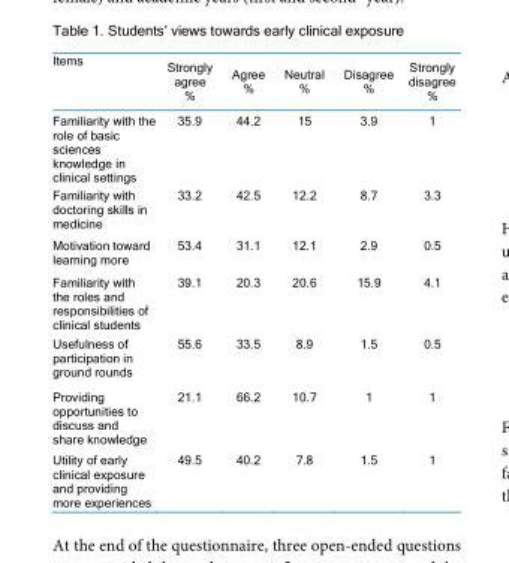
<table><thead><tr><td>Items</td><td>Strongly agree %</td><td>Agree %</td><td>Neutral %</td><td>Disagree %</td><td>Strongly disagree %</td></tr></thead><tbody><tr><td>Familiarity with the role of basic sciences knowledge in clinical settings</td><td>35.9</td><td>44.2</td><td>15</td><td>3.9</td><td>1</td></tr><tr><td>Familiarity with doctoring skills in medicine</td><td>33.2</td><td>42.5</td><td>12.2</td><td>8.7</td><td>3.3</td></tr><tr><td>Motivation toward learning more</td><td>53.4</td><td>31.1</td><td>12.1</td><td>2.9</td><td>0.5</td></tr><tr><td>Familiarity with the roles and responsibilities of clinical students</td><td>39.1</td><td>20.3</td><td>20.6</td><td>15.9</td><td>4.1</td></tr><tr><td>Usefulness of participation in ground rounds</td><td>55.6</td><td>33.5</td><td>8.9</td><td>1.5</td><td>0.5</td></tr><tr><td>Providing opportunities to discuss and share knowledge</td><td>21.1</td><td>66.2</td><td>10.7</td><td>1</td><td>1</td></tr><tr><td>Utility of early clinical exposure and providing more experiences</td><td>49.5</td><td>40.2</td><td>7.8</td><td>1.5</td><td>1</td></tr></tbody></table>